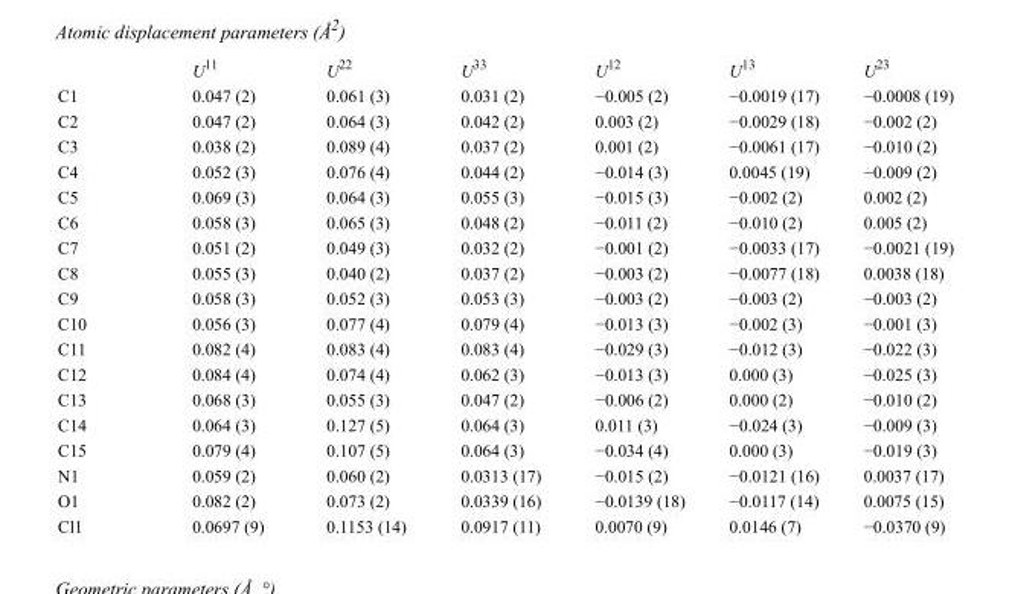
<table><thead><tr><td></td><td>U<sup>11</sup></td><td>U<sup>22</sup></td><td>U<sup>33</sup></td><td>U<sup>12</sup></td><td>U<sup>13</sup></td><td>U<sup>23</sup></td></tr></thead><tbody><tr><td>C1</td><td>0.047 (2)</td><td>0.061 (3)</td><td>0.031 (2)</td><td>−0.005 (2)</td><td>−0.0019 (17)</td><td>−0.0008 (19)</td></tr><tr><td>C2</td><td>0.047 (2)</td><td>0.064 (3)</td><td>0.042 (2)</td><td>0.003 (2)</td><td>−0.0029 (18)</td><td>−0.002 (2)</td></tr><tr><td>C3</td><td>0.038 (2)</td><td>0.089 (4)</td><td>0.037 (2)</td><td>0.001 (2)</td><td>−0.0061 (17)</td><td>−0.010 (2)</td></tr><tr><td>C4</td><td>0.052 (3)</td><td>0.076 (4)</td><td>0.044 (2)</td><td>−0.014 (3)</td><td>0.0045 (19)</td><td>−0.009 (2)</td></tr><tr><td>C5</td><td>0.069 (3)</td><td>0.064 (3)</td><td>0.055 (3)</td><td>−0.015 (3)</td><td>−0.002 (2)</td><td>0.002 (2)</td></tr><tr><td>C6</td><td>0.058 (3)</td><td>0.065 (3)</td><td>0.048 (2)</td><td>−0.011 (2)</td><td>−0.010 (2)</td><td>0.005 (2)</td></tr><tr><td>C7</td><td>0.051 (2)</td><td>0.049 (3)</td><td>0.032 (2)</td><td>−0.001 (2)</td><td>−0.0033 (17)</td><td>−0.0021 (19)</td></tr><tr><td>C8</td><td>0.055 (3)</td><td>0.040 (2)</td><td>0.037 (2)</td><td>−0.003 (2)</td><td>−0.0077 (18)</td><td>0.0038 (18)</td></tr><tr><td>C9</td><td>0.058 (3)</td><td>0.052 (3)</td><td>0.053 (3)</td><td>−0.003 (2)</td><td>−0.003 (2)</td><td>−0.003 (2)</td></tr><tr><td>C10</td><td>0.056 (3)</td><td>0.077 (4)</td><td>0.079 (4)</td><td>−0.013 (3)</td><td>−0.002 (3)</td><td>−0.001 (3)</td></tr><tr><td>C11</td><td>0.082 (4)</td><td>0.083 (4)</td><td>0.083 (4)</td><td>−0.029 (3)</td><td>−0.012 (3)</td><td>−0.022 (3)</td></tr><tr><td>C12</td><td>0.084 (4)</td><td>0.074 (4)</td><td>0.062 (3)</td><td>−0.013 (3)</td><td>0.000 (3)</td><td>−0.025 (3)</td></tr><tr><td>C13</td><td>0.068 (3)</td><td>0.055 (3)</td><td>0.047 (2)</td><td>−0.006 (2)</td><td>0.000 (2)</td><td>−0.010 (2)</td></tr><tr><td>C14</td><td>0.064 (3)</td><td>0.127 (5)</td><td>0.064 (3)</td><td>0.011 (3)</td><td>−0.024 (3)</td><td>−0.009 (3)</td></tr><tr><td>C15</td><td>0.079 (4)</td><td>0.107 (5)</td><td>0.064 (3)</td><td>−0.034 (4)</td><td>0.000 (3)</td><td>−0.019 (3)</td></tr><tr><td>N1</td><td>0.059 (2)</td><td>0.060 (2)</td><td>0.0313 (17)</td><td>−0.015 (2)</td><td>−0.0121 (16)</td><td>0.0037 (17)</td></tr><tr><td>O1</td><td>0.082 (2)</td><td>0.073 (2)</td><td>0.0339 (16)</td><td>−0.0139 (18)</td><td>−0.0117 (14)</td><td>0.0075 (15)</td></tr><tr><td>Cl1</td><td>0.0697 (9)</td><td>0.1153 (14)</td><td>0.0917 (11)</td><td>0.0070 (9)</td><td>0.0146 (7)</td><td>−0.0370 (9)</td></tr></tbody></table>